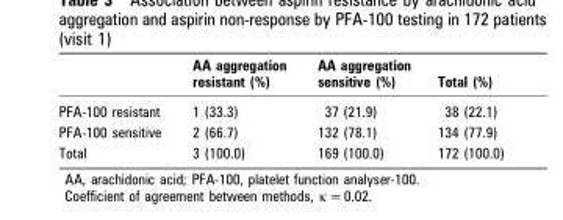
<table><thead><tr><td></td><td>AA aggregation resistant (%)</td><td>AA aggregation sensitive (%)</td><td>Total (%)</td></tr></thead><tbody><tr><td>PFA-100 resistant</td><td>1 (33.3)</td><td>37 (21.9)</td><td>38 (22.1)</td></tr><tr><td>PFA-100 sensitive</td><td>2 (66.7)</td><td>132 (78.1)</td><td>134 (77.9)</td></tr><tr><td>Total</td><td>3 (100.0)</td><td>169 (100.0)</td><td>172 (100.0)</td></tr></tbody></table>